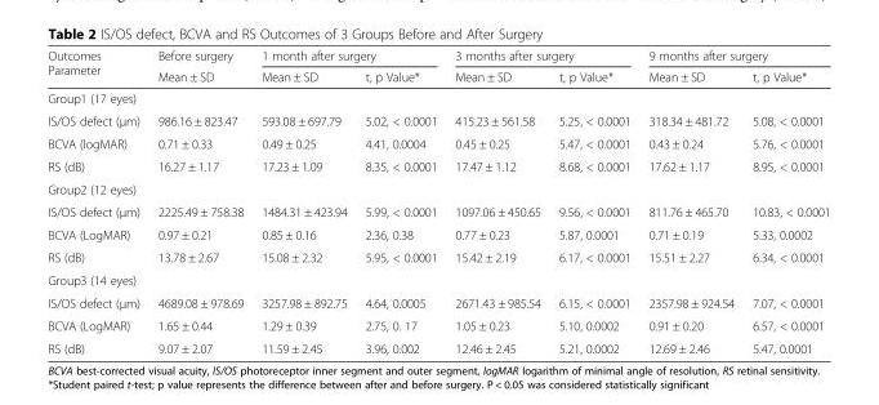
<table><thead><tr><td rowspan="2">Outcomes Parameter</td><td rowspan="2">Before surgery Mean ± SD</td><td colspan="2">1 month after surgery</td><td colspan="2">3 months after surgery</td><td colspan="2">9 months after surgery</td></tr><tr><td>Mean ± SD</td><td>t, p Value*</td><td>Mean ± SD</td><td>t, p Value*</td><td>Mean ± SD</td><td>t, p Value*</td></tr></thead><tbody><tr><td colspan="8">Group1 (17 eyes)</td></tr><tr><td>IS/OS defect (μm)</td><td>986.16 ± 823.47</td><td>593.08 ± 697.79</td><td>5.02, &lt; 0.0001</td><td>415.23 ± 561.58</td><td>5.25, &lt; 0.0001</td><td>318.34 ± 481.72</td><td>5.08, &lt; 0.0001</td></tr><tr><td>BCVA (logMAR)</td><td>0.71 ± 0.33</td><td>0.49 ± 0.25</td><td>4.41, 0.0004</td><td>0.45 ± 0.25</td><td>5.47, &lt; 0.0001</td><td>0.43 ± 0.24</td><td>5.76, &lt; 0.0001</td></tr><tr><td>RS (dB)</td><td>16.27 ± 1.17</td><td>17.23 ± 1.09</td><td>8.35, &lt; 0.0001</td><td>17.47 ± 1.12</td><td>8.68, &lt; 0.0001</td><td>17.62 ± 1.17</td><td>8.95, &lt; 0.0001</td></tr><tr><td colspan="8">Group2 (12 eyes)</td></tr><tr><td>IS/OS defect (μm)</td><td>2225.49 ± 758.38</td><td>1484.31 ± 423.94</td><td>5.99, &lt; 0.0001</td><td>1097.06 ± 450.65</td><td>9.56, &lt; 0.0001</td><td>811.76 ± 465.70</td><td>10.83, &lt; 0.0001</td></tr><tr><td>BCVA (LogMAR)</td><td>0.97 ± 0.21</td><td>0.85 ± 0.16</td><td>2.36, 0.38</td><td>0.77 ± 0.23</td><td>5.87, 0.0001</td><td>0.71 ± 0.19</td><td>5.33, 0.0002</td></tr><tr><td>RS (dB)</td><td>13.78 ± 2.67</td><td>15.08 ± 2.32</td><td>5.95, &lt; 0.0001</td><td>15.42 ± 2.19</td><td>6.17, &lt; 0.0001</td><td>15.51 ± 2.27</td><td>6.34, &lt; 0.0001</td></tr><tr><td colspan="8">Group3 (14 eyes)</td></tr><tr><td>IS/OS defect (μm)</td><td>4689.08 ± 978.69</td><td>3257.98 ± 892.75</td><td>4.64, 0.0005</td><td>2671.43 ± 985.54</td><td>6.15, &lt; 0.0001</td><td>2357.98 ± 924.54</td><td>7.07, &lt; 0.0001</td></tr><tr><td>BCVA (LogMAR)</td><td>1.65 ± 0.44</td><td>1.29 ± 0.39</td><td>2.75, 0. 17</td><td>1.05 ± 0.23</td><td>5.10, 0.0002</td><td>0.91 ± 0.20</td><td>6.57, &lt; 0.0001</td></tr><tr><td>RS (dB)</td><td>9.07 ± 2.07</td><td>11.59 ± 2.45</td><td>3.96, 0.002</td><td>12.46 ± 2.45</td><td>5.21, 0.0002</td><td>12.69 ± 2.46</td><td>5.47, 0.0001</td></tr></tbody></table>